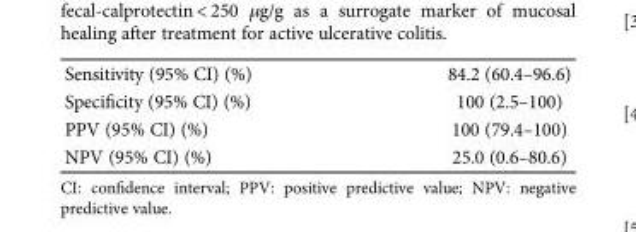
<table><tbody><tr><td>Sensitivity (95% CI) (%)</td><td>84.2 (60.4–96.6)</td></tr><tr><td>Specificity (95% CI) (%)</td><td>100 (2.5–100)</td></tr><tr><td>PPV (95% CI) (%)</td><td>100 (79.4–100)</td></tr><tr><td>NPV (95% CI) (%)</td><td>25.0 (0.6–80.6)</td></tr></tbody></table>